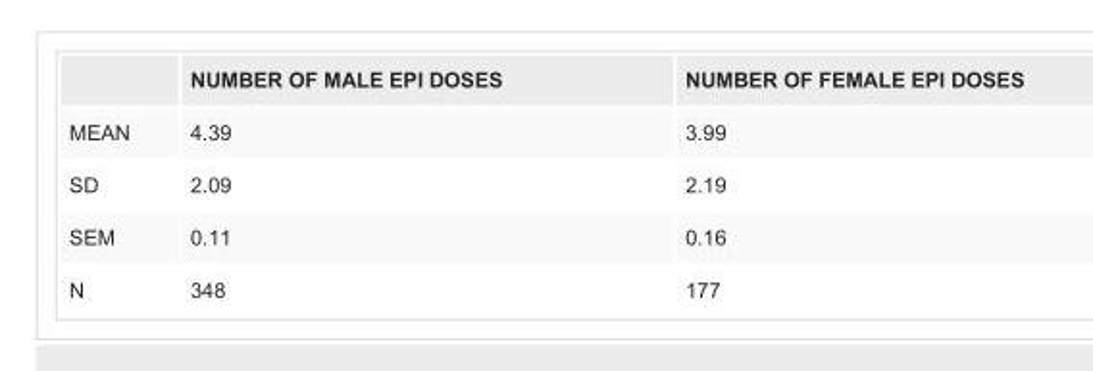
<table><thead><tr><td></td><td>NUMBER OF MALE EPI DOSES</td><td>NUMBER OF FEMALE EPI DOSES</td></tr></thead><tbody><tr><td>MEAN</td><td>4.39</td><td>3.99</td></tr><tr><td>SD</td><td>2.09</td><td>2.19</td></tr><tr><td>SEM</td><td>0.11</td><td>0.16</td></tr><tr><td>N</td><td>348</td><td>177</td></tr></tbody></table>